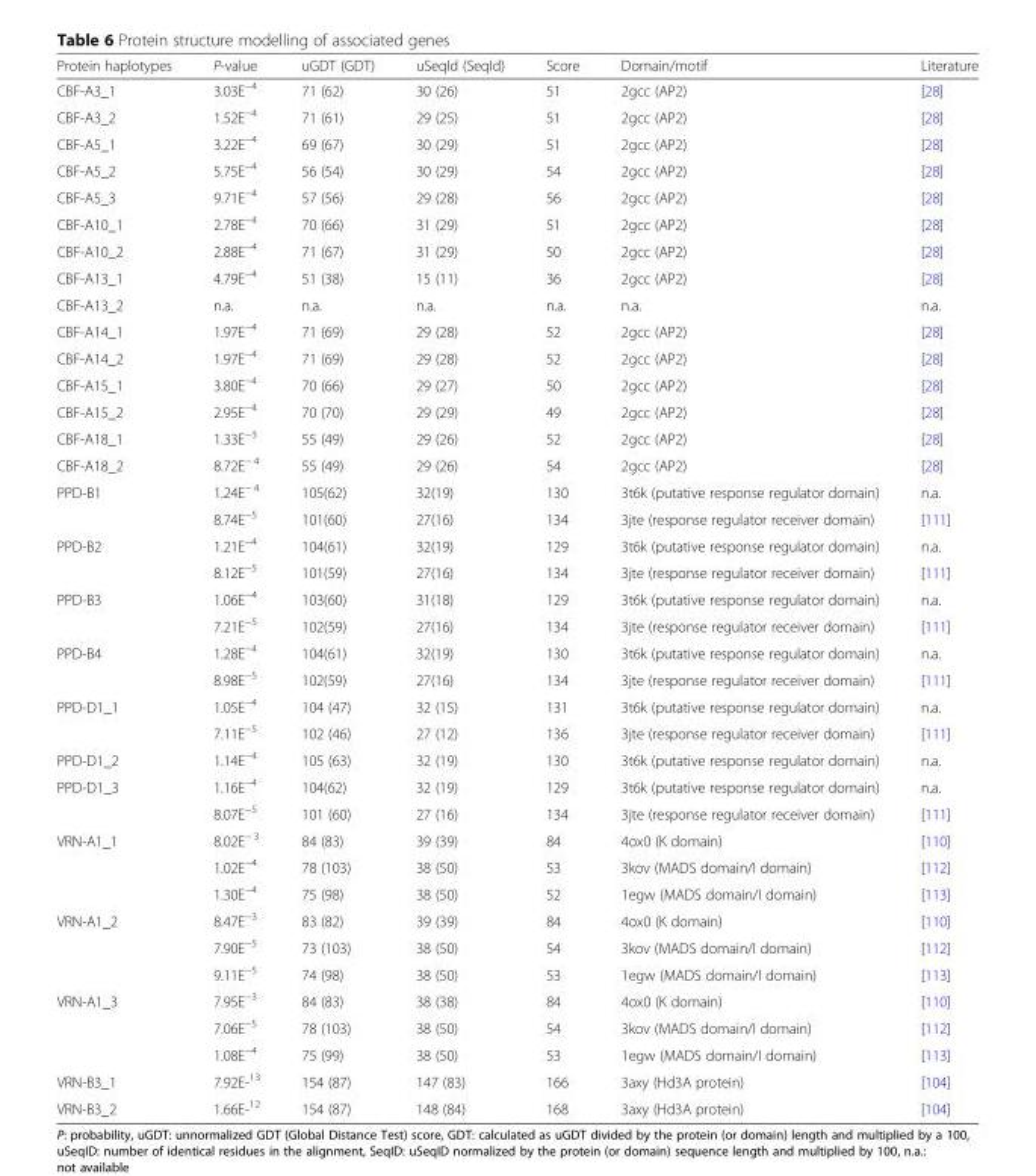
<table><thead><tr><td>Protein haplotypes</td><td>P-value</td><td>uGDT (GDT)</td><td>uSeqId (SeqId)</td><td>Score</td><td>Domain/motif</td><td>Literature</td></tr></thead><tbody><tr><td>CBF-A3_1</td><td>3.03E<sup>−4</sup></td><td>71 (62)</td><td>30 (26)</td><td>51</td><td>2gcc (AP2)</td><td>[28]</td></tr><tr><td>CBF-A3_2</td><td>1.52E<sup>−4</sup></td><td>71 (61)</td><td>29 (25)</td><td>51</td><td>2gcc (AP2)</td><td>[28]</td></tr><tr><td>CBF-A5_1</td><td>3.22E<sup>−4</sup></td><td>69 (67)</td><td>30 (29)</td><td>51</td><td>2gcc (AP2)</td><td>[28]</td></tr><tr><td>CBF-A5_2</td><td>5.75E<sup>−4</sup></td><td>56 (54)</td><td>30 (29)</td><td>54</td><td>2gcc (AP2)</td><td>[28]</td></tr><tr><td>CBF-A5_3</td><td>9.71E<sup>−4</sup></td><td>57 (56)</td><td>29 (28)</td><td>56</td><td>2gcc (AP2)</td><td>[28]</td></tr><tr><td>CBF-A10_1</td><td>2.78E<sup>−4</sup></td><td>70 (66)</td><td>31 (29)</td><td>51</td><td>2gcc (AP2)</td><td>[28]</td></tr><tr><td>CBF-A10_2</td><td>2.88E<sup>−4</sup></td><td>71 (67)</td><td>31 (29)</td><td>50</td><td>2gcc (AP2)</td><td>[28]</td></tr><tr><td>CBF-A13_1</td><td>4.79E<sup>−4</sup></td><td>51 (38)</td><td>15 (11)</td><td>36</td><td>2gcc (AP2)</td><td>[28]</td></tr><tr><td>CBF-A13_2</td><td>n.a.</td><td>n.a.</td><td>n.a.</td><td>n.a.</td><td>n.a.</td><td>n.a.</td></tr><tr><td>CBF-A14_1</td><td>1.97E<sup>−4</sup></td><td>71 (69)</td><td>29 (28)</td><td>52</td><td>2gcc (AP2)</td><td>[28]</td></tr><tr><td>CBF-A14_2</td><td>1.97E<sup>−4</sup></td><td>71 (69)</td><td>29 (28)</td><td>52</td><td>2gcc (AP2)</td><td>[28]</td></tr><tr><td>CBF-A15_1</td><td>3.80E<sup>−4</sup></td><td>70 (66)</td><td>29 (27)</td><td>50</td><td>2gcc (AP2)</td><td>[28]</td></tr><tr><td>CBF-A15_2</td><td>2.95E<sup>−4</sup></td><td>70 (70)</td><td>29 (29)</td><td>49</td><td>2gcc (AP2)</td><td>[28]</td></tr><tr><td>CBF-A18_1</td><td>1.33E<sup>−3</sup></td><td>55 (49)</td><td>29 (26)</td><td>52</td><td>2gcc (AP2)</td><td>[28]</td></tr><tr><td>CBF-A18_2</td><td>8.72E<sup>− 4</sup></td><td>55 (49)</td><td>29 (26)</td><td>54</td><td>2gcc (AP2)</td><td>[28]</td></tr><tr><td rowspan="2">PPD-B1</td><td>1.24E<sup>− 4</sup></td><td>105(62)</td><td>32(19)</td><td>130</td><td>3t6k (putative response regulator domain)</td><td>n.a.</td></tr><tr><td>8.74E<sup>−5</sup></td><td>101(60)</td><td>27(16)</td><td>134</td><td>3jte (response regulator receiver domain)</td><td>[111]</td></tr><tr><td rowspan="2">PPD-B2</td><td>1.21E<sup>−4</sup></td><td>104(61)</td><td>32(19)</td><td>129</td><td>3t6k (putative response regulator domain)</td><td>n.a.</td></tr><tr><td>8.12E<sup>−5</sup></td><td>101(59)</td><td>27(16)</td><td>134</td><td>3jte (response regulator receiver domain)</td><td>[111]</td></tr><tr><td rowspan="2">PPD-B3</td><td>1.06E<sup>−4</sup></td><td>103(60)</td><td>31(18)</td><td>129</td><td>3t6k (putative response regulator domain)</td><td>n.a.</td></tr><tr><td>7.21E<sup>−5</sup></td><td>102(59)</td><td>27(16)</td><td>134</td><td>3jte (response regulator receiver domain)</td><td>[111]</td></tr><tr><td rowspan="2">PPD-B4</td><td>1.28E<sup>−4</sup></td><td>104(61)</td><td>32(19)</td><td>130</td><td>3t6k (putative response regulator domain)</td><td>n.a.</td></tr><tr><td>8.98E<sup>−5</sup></td><td>102(59)</td><td>27(16)</td><td>134</td><td>3jte (response regulator receiver domain)</td><td>[111]</td></tr><tr><td rowspan="2">PPD-D1_1</td><td>1.05E<sup>−4</sup></td><td>104 (47)</td><td>32 (15)</td><td>131</td><td>3t6k (putative response regulator domain)</td><td>n.a.</td></tr><tr><td>7.11E<sup>−5</sup></td><td>102 (46)</td><td>27 (12)</td><td>136</td><td>3jte (response regulator receiver domain)</td><td>[111]</td></tr><tr><td>PPD-D1_2</td><td>1.14E<sup>−4</sup></td><td>105 (63)</td><td>32 (19)</td><td>130</td><td>3t6k (putative response regulator domain)</td><td>n.a.</td></tr><tr><td rowspan="2">PPD-D1_3</td><td>1.16E<sup>−4</sup></td><td>104(62)</td><td>32 (19)</td><td>129</td><td>3t6k (putative response regulator domain)</td><td>n.a.</td></tr><tr><td>8.07E<sup>−5</sup></td><td>101 (60)</td><td>27 (16)</td><td>134</td><td>3jte (response regulator receiver domain)</td><td>[111]</td></tr><tr><td rowspan="3">VRN-A1_1</td><td>8.02E<sup>− 3</sup></td><td>84 (83)</td><td>39 (39)</td><td>84</td><td>4ox0 (K domain)</td><td>[110]</td></tr><tr><td>1.02E<sup>−4</sup></td><td>78 (103)</td><td>38 (50)</td><td>53</td><td>3kov (MADS domain/I domain)</td><td>[112]</td></tr><tr><td>1.30E<sup>−4</sup></td><td>75 (98)</td><td>38 (50)</td><td>52</td><td>1egw (MADS domain/I domain)</td><td>[113]</td></tr><tr><td rowspan="3">VRN-A1_2</td><td>8.47E<sup>−3</sup></td><td>83 (82)</td><td>39 (39)</td><td>84</td><td>4ox0 (K domain)</td><td>[110]</td></tr><tr><td>7.90E<sup>−5</sup></td><td>73 (103)</td><td>38 (50)</td><td>54</td><td>3kov (MADS domain/I domain)</td><td>[112]</td></tr><tr><td>9.11E<sup>−5</sup></td><td>74 (98)</td><td>38 (50)</td><td>53</td><td>1egw (MADS domain/I domain)</td><td>[113]</td></tr><tr><td rowspan="3">VRN-A1_3</td><td>7.95E<sup>−3</sup></td><td>84 (83)</td><td>38 (38)</td><td>84</td><td>4ox0 (K domain)</td><td>[110]</td></tr><tr><td>7.06E<sup>−5</sup></td><td>78 (103)</td><td>38 (50)</td><td>54</td><td>3kov (MADS domain/I domain)</td><td>[112]</td></tr><tr><td>1.08E<sup>−4</sup></td><td>75 (99)</td><td>38 (50)</td><td>53</td><td>1egw (MADS domain/I domain)</td><td>[113]</td></tr><tr><td>VRN-B3_1</td><td>7.92E-<sup>13</sup></td><td>154 (87)</td><td>147 (83)</td><td>166</td><td>3axy (Hd3A protein)</td><td>[104]</td></tr><tr><td>VRN-B3_2</td><td>1.66E-<sup>12</sup></td><td>154 (87)</td><td>148 (84)</td><td>168</td><td>3axy (Hd3A protein)</td><td>[104]</td></tr></tbody></table>